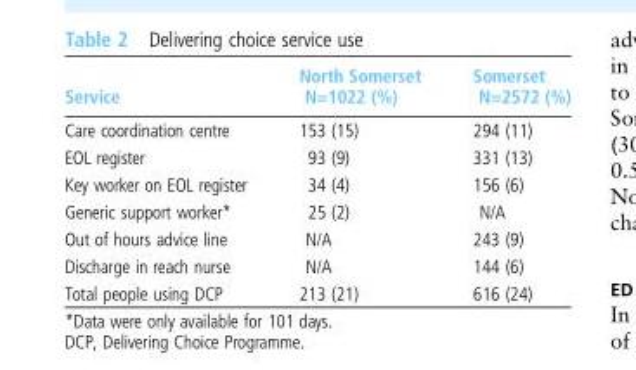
<table><thead><tr><td>Service</td><td>North Somerset N=1022 (%)</td><td>Somerset N=2572 (%)</td></tr></thead><tbody><tr><td>Care coordination centre</td><td>153 (15)</td><td>294 (11)</td></tr><tr><td>EOL register</td><td>93 (9)</td><td>331 (13)</td></tr><tr><td>Key worker on EOL register</td><td>34 (4)</td><td>156 (6)</td></tr><tr><td>Generic support worker*</td><td>25 (2)</td><td>N/A</td></tr><tr><td>Out of hours advice line</td><td>N/A</td><td>243 (9)</td></tr><tr><td>Discharge in reach nurse</td><td>N/A</td><td>144 (6)</td></tr><tr><td>Total people using DCP</td><td>213 (21)</td><td>616 (24)</td></tr></tbody></table>